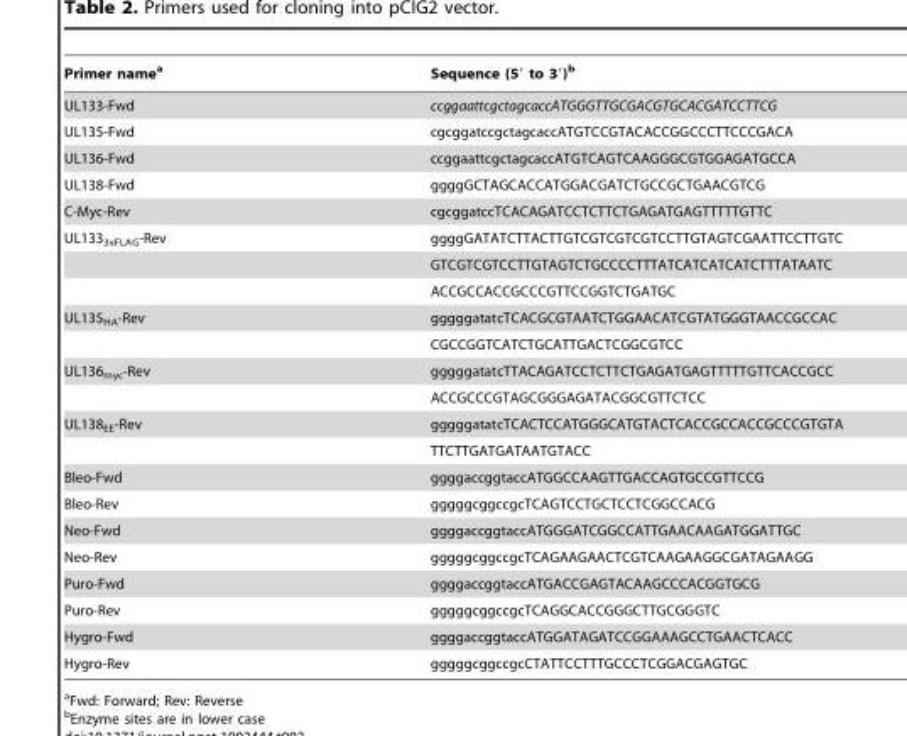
<table><thead><tr><td>Primer name<sup>a</sup></td><td>Sequence (5′ to 3′)<sup>b</sup></td></tr></thead><tbody><tr><td>UL133-Fwd</td><td>ccggaattcgctagcaccATGGGTTGCGACGTGCACGATCCTTCG</td></tr><tr><td>UL135-Fwd</td><td>cgcggatccgctagcaccATGTCCGTACACCGGCCCTTCCCGACA</td></tr><tr><td>UL136-Fwd</td><td>ccggaattcgctagcaccATGTCAGTCAAGGGCGTGGAGATGCCA</td></tr><tr><td>UL138-Fwd</td><td>ggggGCTAGCACCATGGACGATCTGCCGCTGAACGTCG</td></tr><tr><td>C-Myc-Rev</td><td>cgcggatccTCACAGATCCTCTTCTGAGATGAGTTTTTGTTC</td></tr><tr><td rowspan="3">UL133<sub>3xFLAG</sub>-Rev</td><td>ggggGATATCTTACTTGTCGTCGTCGTCCTTGTAGTCGAATTCCTTGTC</td></tr><tr><td>GTCGTCGTCCTTGTAGTCTGCCCCTTTATCATCATCATCTTTATAATC</td></tr><tr><td>ACCGCCACCGCCCGTTCCGGTCTGATGC</td></tr><tr><td rowspan="2">UL135<sub>HA</sub>-Rev</td><td>gggggatatcTCACGCGTAATCTGGAACATCGTATGGGTAACCGCCAC</td></tr><tr><td>CGCCGGTCATCTGCATTGACTCGGCGTCC</td></tr><tr><td rowspan="2">UL136<sub>myc</sub>-Rev</td><td>gggggatatcTTACAGATCCTCTTCTGAGATGAGTTTTTGTTCACCGCC</td></tr><tr><td>ACCGCCCGTAGCGGGAGATACGGCGTTCTCC</td></tr><tr><td rowspan="2">UL138<sub>EE</sub>-Rev</td><td>gggggatatcTCACTCCATGGGCATGTACTCACCGCCACCGCCCGTGTA</td></tr><tr><td>TTCTTGATGATAATGTACC</td></tr><tr><td>Bleo-Fwd</td><td>ggggaccggtaccATGGCCAAGTTGACCAGTGCCGTTCCG</td></tr><tr><td>Bleo-Rev</td><td>gggggcggccgcTCAGTCCTGCTCCTCGGCCACG</td></tr><tr><td>Neo-Fwd</td><td>ggggaccggtaccATGGGATCGGCCATTGAACAAGATGGATTGC</td></tr><tr><td>Neo-Rev</td><td>gggggcggccgcTCAGAAGAACTCGTCAAGAAGGCGATAGAAGG</td></tr><tr><td>Puro-Fwd</td><td>ggggaccggtaccATGACCGAGTACAAGCCCACGGTGCG</td></tr><tr><td>Puro-Rev</td><td>gggggcggccgcTCAGGCACCGGGCTTGCGGGTC</td></tr><tr><td>Hygro-Fwd</td><td>ggggaccggtaccATGGATAGATCCGGAAAGCCTGAACTCACC</td></tr><tr><td>Hygro-Rev</td><td>gggggcggccgcCTATTCCTTTGCCCTCGGACGAGTGC</td></tr></tbody></table>